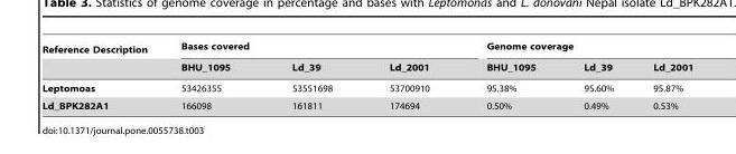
<table><thead><tr><td rowspan="2">Reference Description</td><td colspan="3">Bases covered</td><td colspan="3">Genome coverage</td></tr><tr><td>BHU_1095</td><td>Ld_39</td><td>Ld_2001</td><td>BHU_1095</td><td>Ld_39</td><td>Ld_2001</td></tr></thead><tbody><tr><td>Leptomoas</td><td>53426355</td><td>53551698</td><td>53700910</td><td>95.38%</td><td>95.60%</td><td>95.87%</td></tr><tr><td>Ld_BPK282A1</td><td>166098</td><td>161811</td><td>174694</td><td>0.50%</td><td>0.49%</td><td>0.53%</td></tr></tbody></table>